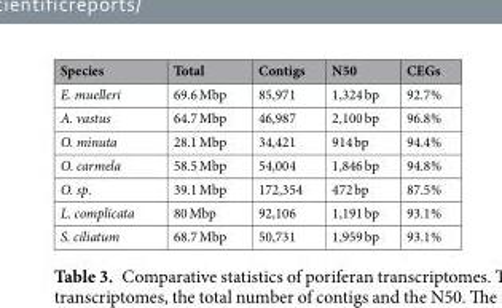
<table><thead><tr><td>Species</td><td>Total</td><td>Contigs</td><td>N50</td><td>CEGs</td></tr></thead><tbody><tr><td>E. muelleri</td><td>69.6 Mbp</td><td>85,971</td><td>1,324 bp</td><td>92.7%</td></tr><tr><td>A. vastus</td><td>64.7 Mbp</td><td>46,987</td><td>2,100 bp</td><td>96.8%</td></tr><tr><td>O. minuta</td><td>28.1 Mbp</td><td>34,421</td><td>914 bp</td><td>94.4%</td></tr><tr><td>O. carmela</td><td>58.5 Mbp</td><td>54,004</td><td>1,846 bp</td><td>94.8%</td></tr><tr><td>O. sp.</td><td>39.1 Mbp</td><td>172,354</td><td>472 bp</td><td>87.5%</td></tr><tr><td>L. complicata</td><td>80 Mbp</td><td>92,106</td><td>1,191 bp</td><td>93.1%</td></tr><tr><td>S. ciliatum</td><td>68.7 Mbp</td><td>50,731</td><td>1,959 bp</td><td>93.1%</td></tr></tbody></table>